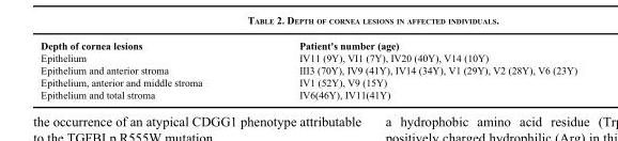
<table><thead><tr><td>Depth of cornea lesions</td><td>Patient&#x27;s number (age)</td></tr></thead><tbody><tr><td>Epithelium</td><td>IV11 (9Y), VI1 (7Y), IV20 (40Y), V14 (10Y)</td></tr><tr><td>Epithelium and anterior stroma</td><td>III3 (70Y), IV9 (41Y), IV14 (34Y), V1 (29Y), V2 (28Y), V6 (23Y)</td></tr><tr><td>Epithelium, anterior and middle stroma</td><td>IV1 (52Y), V9 (15Y)</td></tr><tr><td>Epithelium and total stroma</td><td>IV6(46Y), IV11(41Y)</td></tr></tbody></table>